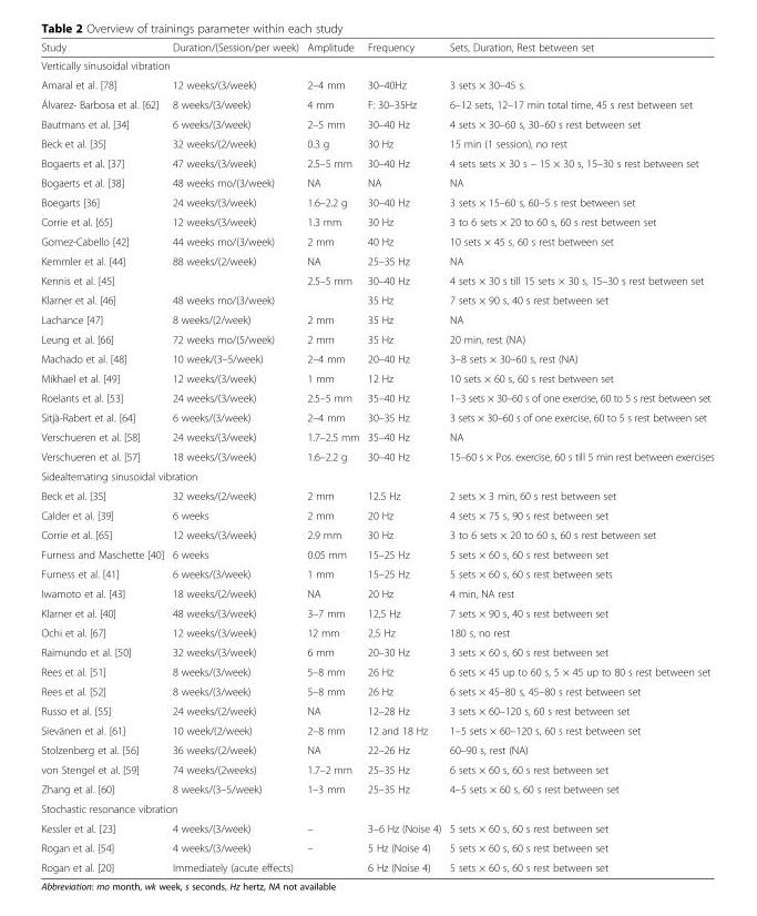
<table><thead><tr><td>Study</td><td>Duration/(Session/per week)</td><td>Amplitude</td><td>Frequency</td><td>Sets, Duration, Rest between set</td></tr></thead><tbody><tr><td colspan="5">Vertically sinusoidal vibration</td></tr><tr><td>Amaral et al. [78]</td><td>12 weeks/(3/week)</td><td>2–4 mm</td><td>30–40Hz</td><td>3 sets × 30–45 s.</td></tr><tr><td>Álvarez- Barbosa et al. [62]</td><td>8 weeks/(3/week)</td><td>4 mm</td><td>F: 30–35Hz</td><td>6–12 sets, 12–17 min total time, 45 s rest between set</td></tr><tr><td>Bautmans et al. [34]</td><td>6 weeks/(3/week)</td><td>2–5 mm</td><td>30–40 Hz</td><td>4 sets × 30–60 s, 30–60 s rest between set</td></tr><tr><td>Beck et al. [35]</td><td>32 weeks/(2/week)</td><td>0.3 g</td><td>30 Hz</td><td>15 min (1 session), no rest</td></tr><tr><td>Bogaerts et al. [37]</td><td>47 weeks/(3/week)</td><td>2.5–5 mm</td><td>30–40 Hz</td><td>4 sets sets × 30 s – 15 × 30 s, 15–30 s rest between set</td></tr><tr><td>Bogaerts et al. [38]</td><td>48 weeks mo/(3/week)</td><td>NA</td><td>NA</td><td>NA</td></tr><tr><td>Boegarts [36]</td><td>24 weeks/(3/week)</td><td>1.6–2.2 g</td><td>30–40 Hz</td><td>3 sets × 15–60 s, 60–5 s rest between set</td></tr><tr><td>Corrie et al. [65]</td><td>12 weeks/(3/week)</td><td>1.3 mm</td><td>30 Hz</td><td>3 to 6 sets × 20 to 60 s, 60 s rest between set</td></tr><tr><td>Gomez-Cabello [42]</td><td>44 weeks mo/(3/week)</td><td>2 mm</td><td>40 Hz</td><td>10 sets × 45 s, 60 s rest between set</td></tr><tr><td>Kemmler et al. [44]</td><td>88 weeks/(2/week)</td><td>NA</td><td>25–35 Hz</td><td>NA</td></tr><tr><td>Kennis et al. [45]</td><td></td><td>2.5–5 mm</td><td>30–40 Hz</td><td>4 sets × 30 s till 15 sets × 30 s, 15–30 s rest between set</td></tr><tr><td>Klarner et al. [46]</td><td>48 weeks mo/(3/week)</td><td></td><td>35 Hz</td><td>7 sets × 90 s, 40 s rest between set</td></tr><tr><td>Lachance [47]</td><td>8 weeks/(2/week)</td><td>2 mm</td><td>35 Hz</td><td>NA</td></tr><tr><td>Leung et al. [66]</td><td>72 weeks mo/(5/week)</td><td>2 mm</td><td>35 Hz</td><td>20 min, rest (NA)</td></tr><tr><td>Machado et al. [48]</td><td>10 week/(3–5/week)</td><td>2–4 mm</td><td>20–40 Hz</td><td>3–8 sets × 30–60 s, rest (NA)</td></tr><tr><td>Mikhael et al. [49]</td><td>12 weeks/(3/week)</td><td>1 mm</td><td>12 Hz</td><td>10 sets × 60 s, 60 s rest between set</td></tr><tr><td>Roelants et al. [53]</td><td>24 weeks/(3/week)</td><td>2.5–5 mm</td><td>35–40 Hz</td><td>1–3 sets × 30–60 s of one exercise, 60 to 5 s rest between set</td></tr><tr><td>Sitjà-Rabert et al. [64]</td><td>6 weeks/(3/week)</td><td>2–4 mm</td><td>30–35 Hz</td><td>3 sets × 30–60 s of one exercise, 60 to 5 s rest between set</td></tr><tr><td>Verschueren et al. [58]</td><td>24 weeks/(3/week)</td><td>1.7–2.5 mm</td><td>35–40 Hz</td><td>NA</td></tr><tr><td>Verschueren et al. [57]</td><td>18 weeks/(3/week)</td><td>1.6–2.2 g</td><td>30–40 Hz</td><td>15–60 s × Pos. exercise, 60 s till 5 min rest between exercises</td></tr><tr><td colspan="5">Sidealternating sinusoidal vibration</td></tr><tr><td>Beck et al. [35]</td><td>32 weeks/(2/week)</td><td>2 mm</td><td>12.5 Hz</td><td>2 sets × 3 min, 60 s rest between set</td></tr><tr><td>Calder et al. [39]</td><td>6 weeks</td><td>2 mm</td><td>20 Hz</td><td>4 sets × 75 s, 90 s rest between set</td></tr><tr><td>Corrie et al. [65]</td><td>12 weeks/(3/week)</td><td>2.9 mm</td><td>30 Hz</td><td>3 to 6 sets × 20 to 60 s, 60 s rest between set</td></tr><tr><td>Furness and Maschette [40]</td><td>6 weeks</td><td>0.05 mm</td><td>15–25 Hz</td><td>5 sets × 60 s, 60 s rest between set</td></tr><tr><td>Furness et al. [41]</td><td>6 weeks/(3/week)</td><td>1 mm</td><td>15–25 Hz</td><td>5 sets × 60 s, 60 s rest between sets</td></tr><tr><td>Iwamoto et al. [43]</td><td>18 weeks/(2/week)</td><td>NA</td><td>20 Hz</td><td>4 min, NA rest</td></tr><tr><td>Klarner et al. [40]</td><td>48 weeks/(3/week)</td><td>3–7 mm</td><td>12,5 Hz</td><td>7 sets × 90 s, 40 s rest between set</td></tr><tr><td>Ochi et al. [67]</td><td>12 weeks/(3/week)</td><td>12 mm</td><td>2,5 Hz</td><td>180 s, no rest</td></tr><tr><td>Raimundo et al. [50]</td><td>32 weeks/(3/week)</td><td>6 mm</td><td>20–30 Hz</td><td>3 sets × 60 s, 60 s rest between set</td></tr><tr><td>Rees et al. [51]</td><td>8 weeks/(3/week)</td><td>5–8 mm</td><td>26 Hz</td><td>6 sets × 45 up to 60 s, 5 × 45 up to 80 s rest between set</td></tr><tr><td>Rees et al. [52]</td><td>8 weeks/(3/week)</td><td>5–8 mm</td><td>26 Hz</td><td>6 sets × 45–80 s, 45–80 s rest between set</td></tr><tr><td>Russo et al. [55]</td><td>24 weeks/(2/week)</td><td>NA</td><td>12–28 Hz</td><td>3 sets × 60–120 s, 60 s rest between set</td></tr><tr><td>Sievänen et al. [61]</td><td>10 week/(2/week)</td><td>2–8 mm</td><td>12 and 18 Hz</td><td>1–5 sets × 60–120 s, 60 s rest between set</td></tr><tr><td>Stolzenberg et al. [56]</td><td>36 weeks/(2/week)</td><td>NA</td><td>22–26 Hz</td><td>60–90 s, rest (NA)</td></tr><tr><td>von Stengel et al. [59]</td><td>74 weeks/(2weeks)</td><td>1.7–2 mm</td><td>25–35 Hz</td><td>6 sets × 60 s, 60 s rest between set</td></tr><tr><td>Zhang et al. [60]</td><td>8 weeks/(3–5/week)</td><td>1–3 mm</td><td>25–35 Hz</td><td>4–5 sets × 60 s, 60 s rest between set</td></tr><tr><td colspan="5">Stochastic resonance vibration</td></tr><tr><td>Kessler et al. [23]</td><td>4 weeks/(3/week)</td><td>–</td><td>3–6 Hz (Noise 4)</td><td>5 sets × 60 s, 60 s rest between set</td></tr><tr><td>Rogan et al. [54]</td><td>4 weeks/(3/week)</td><td>–</td><td>5 Hz (Noise 4)</td><td>5 sets × 60 s, 60 s rest between set</td></tr><tr><td>Rogan et al. [20]</td><td>Immediately (acute effects)</td><td></td><td>6 Hz (Noise 4)</td><td>5 sets × 60 s, 60 s rest between set</td></tr></tbody></table>